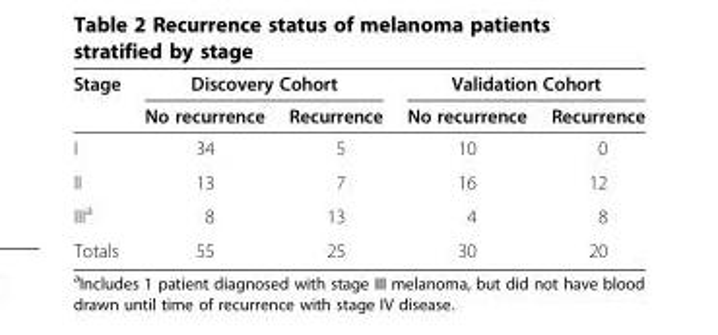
<table><thead><tr><td rowspan="2">Stage</td><td colspan="2">Discovery Cohort</td><td colspan="2">Validation Cohort</td></tr><tr><td>No recurrence</td><td>Recurrence</td><td>No recurrence</td><td>Recurrence</td></tr></thead><tbody><tr><td>I</td><td>34</td><td>5</td><td>10</td><td>0</td></tr><tr><td>II</td><td>13</td><td>7</td><td>16</td><td>12</td></tr><tr><td>III<sup>a</sup></td><td>8</td><td>13</td><td>4</td><td>8</td></tr><tr><td>Totals</td><td>55</td><td>25</td><td>30</td><td>20</td></tr></tbody></table>